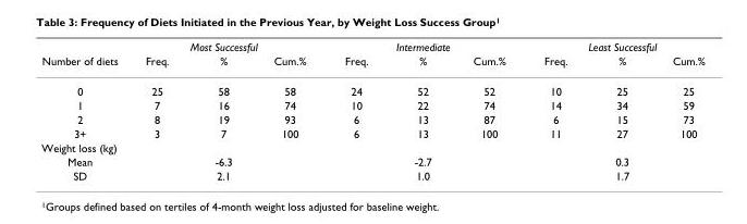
<table><thead><tr><td rowspan="2">Number of diets</td><td colspan="3">Most Successful</td><td colspan="3">Intermediate</td><td colspan="3">Least Successful</td></tr><tr><td>Freq.</td><td>%</td><td>Cum.%</td><td>Freq.</td><td>%</td><td>Cum.%</td><td>Freq.</td><td>%</td><td>Cum.%</td></tr></thead><tbody><tr><td>0</td><td>25</td><td>58</td><td>58</td><td>24</td><td>52</td><td>52</td><td>10</td><td>25</td><td>25</td></tr><tr><td>1</td><td>7</td><td>16</td><td>74</td><td>10</td><td>22</td><td>74</td><td>14</td><td>34</td><td>59</td></tr><tr><td>2</td><td>8</td><td>19</td><td>93</td><td>6</td><td>13</td><td>87</td><td>6</td><td>15</td><td>73</td></tr><tr><td>3+</td><td>3</td><td>7</td><td>100</td><td>6</td><td>13</td><td>100</td><td>11</td><td>27</td><td>100</td></tr><tr><td colspan="10">Weight loss (kg)</td></tr><tr><td>Mean</td><td></td><td>-6.3</td><td></td><td></td><td>-2.7</td><td></td><td></td><td>0.3</td><td></td></tr><tr><td>SD</td><td></td><td>2.1</td><td></td><td></td><td>1.0</td><td></td><td></td><td>1.7</td><td></td></tr></tbody></table>